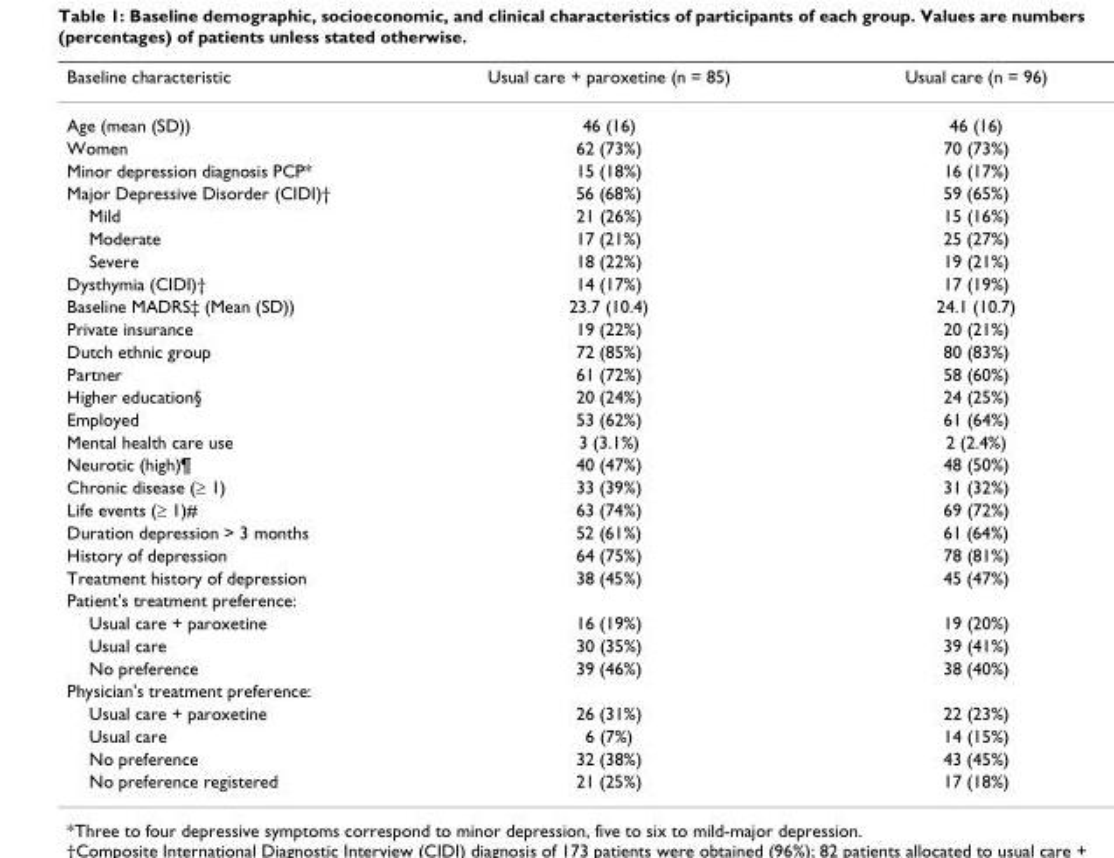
<table><thead><tr><td>Baseline characteristic</td><td>Usual care + paroxetine (n = 85)</td><td>Usual care (n = 96)</td></tr></thead><tbody><tr><td>Age (mean (SD))</td><td>46 (16)</td><td>46 (16)</td></tr><tr><td>Women</td><td>62 (73%)</td><td>70 (73%)</td></tr><tr><td>Minor depression diagnosis PCP*</td><td>15 (18%)</td><td>16 (17%)</td></tr><tr><td>Major Depressive Disorder (CIDI)†</td><td>56 (68%)</td><td>59 (65%)</td></tr><tr><td>Mild</td><td>21 (26%)</td><td>15 (16%)</td></tr><tr><td>Moderate</td><td>17 (21%)</td><td>25 (27%)</td></tr><tr><td>Severe</td><td>18 (22%)</td><td>19 (21%)</td></tr><tr><td>Dysthymia (CIDI)†</td><td>14 (17%)</td><td>17 (19%)</td></tr><tr><td>Baseline MADRS‡ (Mean (SD))</td><td>23.7 (10.4)</td><td>24.1 (10.7)</td></tr><tr><td>Private insurance</td><td>19 (22%)</td><td>20 (21%)</td></tr><tr><td>Dutch ethnic group</td><td>72 (85%)</td><td>80 (83%)</td></tr><tr><td>Partner</td><td>61 (72%)</td><td>58 (60%)</td></tr><tr><td>Higher education§</td><td>20 (24%)</td><td>24 (25%)</td></tr><tr><td>Employed</td><td>53 (62%)</td><td>61 (64%)</td></tr><tr><td>Mental health care use</td><td>3 (3.1%)</td><td>2 (2.4%)</td></tr><tr><td>Neurotic (high)¶</td><td>40 (47%)</td><td>48 (50%)</td></tr><tr><td>Chronic disease (≥ 1)</td><td>33 (39%)</td><td>31 (32%)</td></tr><tr><td>Life events (≥ 1)#</td><td>63 (74%)</td><td>69 (72%)</td></tr><tr><td>Duration depression &gt; 3 months</td><td>52 (61%)</td><td>61 (64%)</td></tr><tr><td>History of depression</td><td>64 (75%)</td><td>78 (81%)</td></tr><tr><td>Treatment history of depression</td><td>38 (45%)</td><td>45 (47%)</td></tr><tr><td colspan="3">Patient&#x27;s treatment preference:</td></tr><tr><td>Usual care + paroxetine</td><td>16 (19%)</td><td>19 (20%)</td></tr><tr><td>Usual care</td><td>30 (35%)</td><td>39 (41%)</td></tr><tr><td>No preference</td><td>39 (46%)</td><td>38 (40%)</td></tr><tr><td colspan="3">Physician&#x27;s treatment preference:</td></tr><tr><td>Usual care + paroxetine</td><td>26 (31%)</td><td>22 (23%)</td></tr><tr><td>Usual care</td><td>6 (7%)</td><td>14 (15%)</td></tr><tr><td>No preference</td><td>32 (38%)</td><td>43 (45%)</td></tr><tr><td>No preference registered</td><td>21 (25%)</td><td>17 (18%)</td></tr></tbody></table>